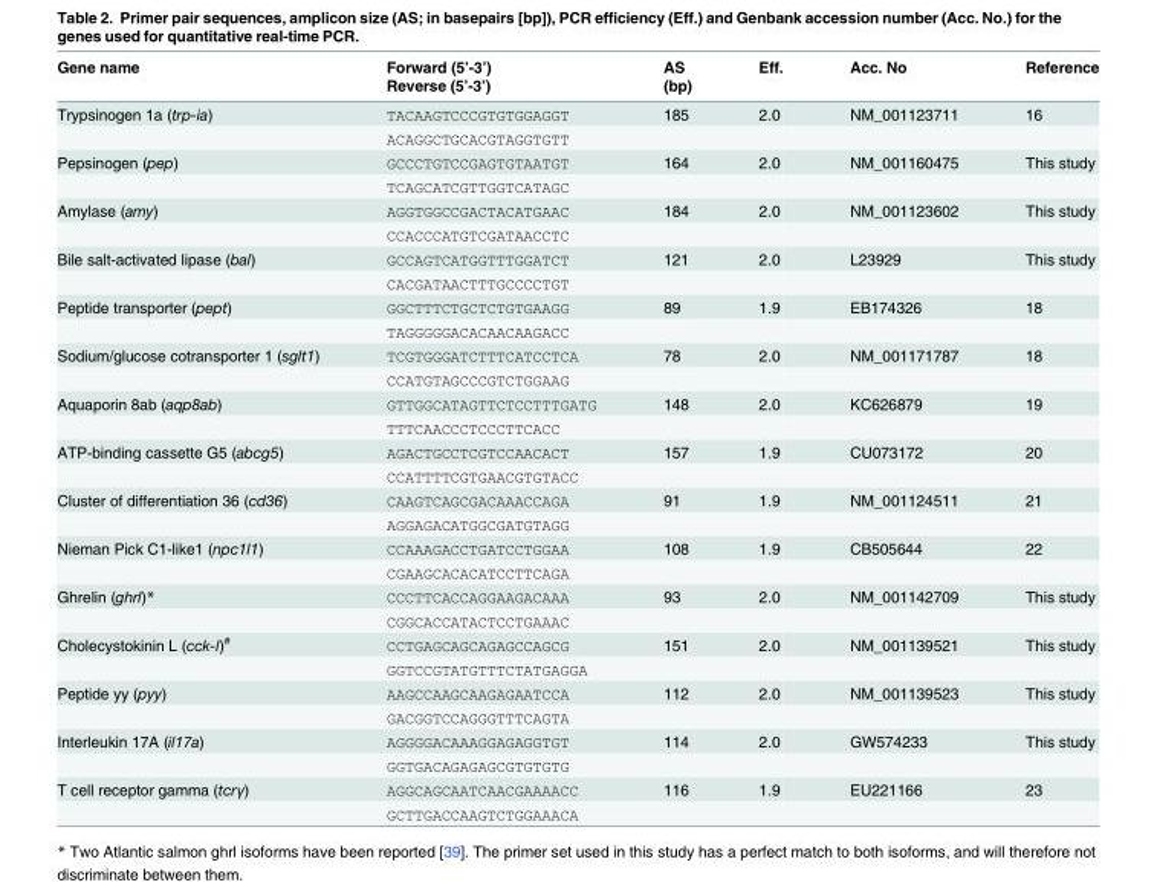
<table><thead><tr><td rowspan="2">Gene name</td><td rowspan="2">Forward (5’-3’) Reverse (5’-3’)</td><td rowspan="2">AS (bp)</td><td rowspan="2">Eff.</td><td rowspan="2">Acc. No</td><td rowspan="2">Reference</td></tr><tr></tr></thead><tbody><tr><td rowspan="2">Trypsinogen 1a (trp-ia)</td><td>TACAAGTCCCGTGTGGAGGT</td><td>185</td><td>2.0</td><td>NM_001123711</td><td>16</td></tr><tr><td>ACAGGCTGCACGTAGGTGTT</td><td></td><td></td><td></td><td></td></tr><tr><td rowspan="2">Pepsinogen (pep)</td><td>GCCCTGTCCGAGTGTAATGT</td><td>164</td><td>2.0</td><td>NM_001160475</td><td>This study</td></tr><tr><td>TCAGCATCGTTGGTCATAGC</td><td></td><td></td><td></td><td></td></tr><tr><td rowspan="2">Amylase (amy)</td><td>AGGTGGCCGACTACATGAAC</td><td>184</td><td>2.0</td><td>NM_001123602</td><td>This study</td></tr><tr><td>CCACCCATGTCGATAACCTC</td><td></td><td></td><td></td><td></td></tr><tr><td rowspan="2">Bile salt-activated lipase (bal)</td><td>GCCAGTCATGGTTTGGATCT</td><td>121</td><td>2.0</td><td>L23929</td><td>This study</td></tr><tr><td>CACGATAACTTTGCCCCTGT</td><td></td><td></td><td></td><td></td></tr><tr><td rowspan="2">Peptide transporter (pept)</td><td>GGCTTTCTGCTCTGTGAAGG</td><td>89</td><td>1.9</td><td>EB174326</td><td>18</td></tr><tr><td>TAGGGGGACACAACAAGACC</td><td></td><td></td><td></td><td></td></tr><tr><td rowspan="2">Sodium/glucose cotransporter 1 (sglt1)</td><td>TCGTGGGATCTTTCATCCTCA</td><td>78</td><td>2.0</td><td>NM_001171787</td><td>18</td></tr><tr><td>CCATGTAGCCCGTCTGGAAG</td><td></td><td></td><td></td><td></td></tr><tr><td rowspan="2">Aquaporin 8ab (aqp8ab)</td><td>GTTGGCATAGTTCTCCTTTGATG</td><td>148</td><td>2.0</td><td>KC626879</td><td>19</td></tr><tr><td>TTTCAACCCTCCCTTCACC</td><td></td><td></td><td></td><td></td></tr><tr><td rowspan="2">ATP-binding cassette G5 (abcg5)</td><td>AGACTGCCTCGTCCAACACT</td><td>157</td><td>1.9</td><td>CU073172</td><td>20</td></tr><tr><td>CCATTTTCGTGAACGTGTACC</td><td></td><td></td><td></td><td></td></tr><tr><td rowspan="2">Cluster of differentiation 36 (cd36)</td><td>CAAGTCAGCGACAAACCAGA</td><td>91</td><td>1.9</td><td>NM_001124511</td><td>21</td></tr><tr><td>AGGAGACATGGCGATGTAGG</td><td></td><td></td><td></td><td></td></tr><tr><td rowspan="2">Nieman Pick C1-like1 (npc1l1)</td><td>CCAAAGACCTGATCCTGGAA</td><td>108</td><td>1.9</td><td>CB505644</td><td>22</td></tr><tr><td>CGAAGCACACATCCTTCAGA</td><td></td><td></td><td></td><td></td></tr><tr><td rowspan="2">Ghrelin (ghrl)*</td><td>CCCTTCACCAGGAAGACAAA</td><td>93</td><td>2.0</td><td>NM_001142709</td><td>This study</td></tr><tr><td>CGGCACCATACTCCTGAAAC</td><td></td><td></td><td></td><td></td></tr><tr><td rowspan="2">Cholecystokinin L (cck-l)<sup>#</sup></td><td>CCTGAGCAGCAGAGCCAGCG</td><td>151</td><td>2.0</td><td>NM_001139521</td><td>This study</td></tr><tr><td>GGTCCGTATGTTTCTATGAGGA</td><td></td><td></td><td></td><td></td></tr><tr><td rowspan="2">Peptide yy (pyy)</td><td>AAGCCAAGCAAGAGAATCCA</td><td>112</td><td>2.0</td><td>NM_001139523</td><td>This study</td></tr><tr><td>GACGGTCCAGGGTTTCAGTA</td><td></td><td></td><td></td><td></td></tr><tr><td rowspan="2">Interleukin 17A (il17a)</td><td>AGGGGACAAAGGAGAGGTGT</td><td>114</td><td>2.0</td><td>GW574233</td><td>This study</td></tr><tr><td>GGTGACAGAGAGCGTGTGTG</td><td></td><td></td><td></td><td></td></tr><tr><td rowspan="2">T cell receptor gamma (tcrγ)</td><td>AGGCAGCAATCAACGAAAACC</td><td>116</td><td>1.9</td><td>EU221166</td><td>23</td></tr><tr><td>GCTTGACCAAGTCTGGAAACA</td><td></td><td></td><td></td><td></td></tr></tbody></table>